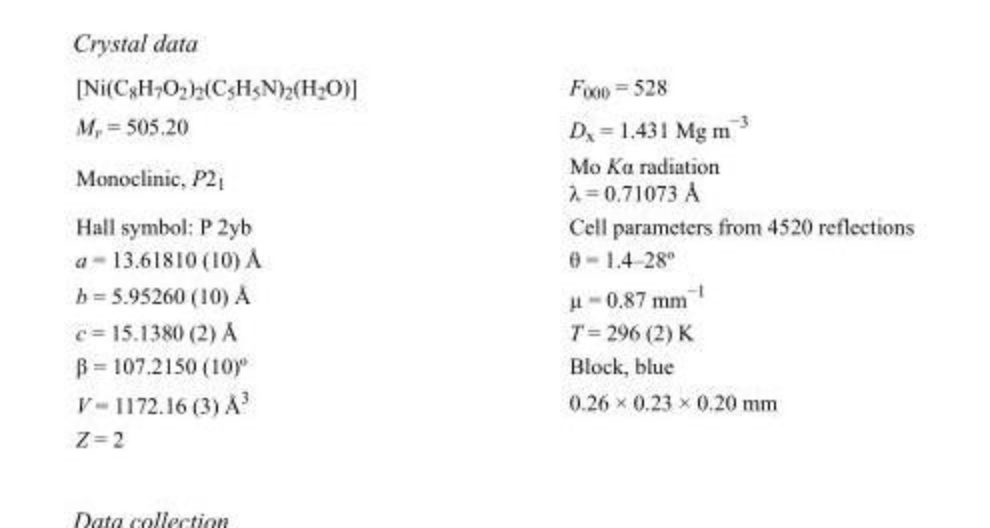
<table><tbody><tr><td>[Ni(C<sub>8</sub>H<sub>7</sub>O<sub>2</sub>)<sub>2</sub>(C<sub>5</sub>H<sub>5</sub>N)<sub>2</sub>(H<sub>2</sub>O)]</td><td>F<sub>000</sub> = 528</td></tr><tr><td>M<sub>r</sub> = 505.20</td><td>D<sub>x</sub> = 1.431 Mg m<sup>−3</sup></td></tr><tr><td>Monoclinic, P2<sub>1</sub></td><td>Mo Kα radiation λ = 0.71073 Å</td></tr><tr><td>Hall symbol: P 2yb</td><td>Cell parameters from 4520 reflections</td></tr><tr><td>a = 13.61810 (10) Å</td><td>θ = 1.4–28º</td></tr><tr><td>b = 5.95260 (10) Å</td><td>µ = 0.87 mm<sup>−1</sup></td></tr><tr><td>c = 15.1380 (2) Å</td><td>T = 296 (2) K</td></tr><tr><td>β = 107.2150 (10)º</td><td>Block, blue</td></tr><tr><td>V = 1172.16 (3) Å<sup>3</sup></td><td>0.26 × 0.23 × 0.20 mm</td></tr><tr><td>Z = 2</td><td></td></tr></tbody></table>